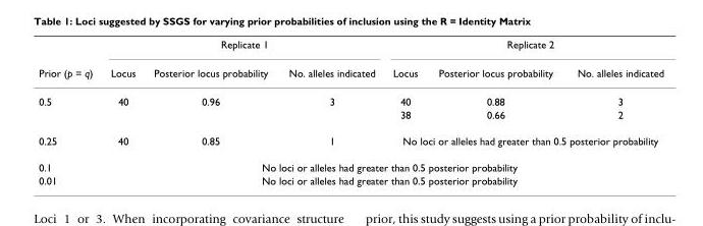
<table><thead><tr><td rowspan="2">Prior (p = q)</td><td colspan="3">Replicate 1</td><td colspan="3">Replicate 2</td></tr><tr><td>Locus</td><td>Posterior locus probability</td><td>No. alleles indicated</td><td>Locus</td><td>Posterior locus probability</td><td>No. alleles indicated</td></tr></thead><tbody><tr><td rowspan="2">0.5</td><td>40</td><td>0.96</td><td>3</td><td>40</td><td>0.88</td><td>3</td></tr><tr><td></td><td></td><td></td><td>38</td><td>0.66</td><td>2</td></tr><tr><td>0.25</td><td>40</td><td>0.85</td><td>1</td><td colspan="3">No loci or alleles had greater than 0.5 posterior probability</td></tr><tr><td>0.1</td><td colspan="6">No loci or alleles had greater than 0.5 posterior probability</td></tr><tr><td>0.01</td><td colspan="6">No loci or alleles had greater than 0.5 posterior probability</td></tr></tbody></table>